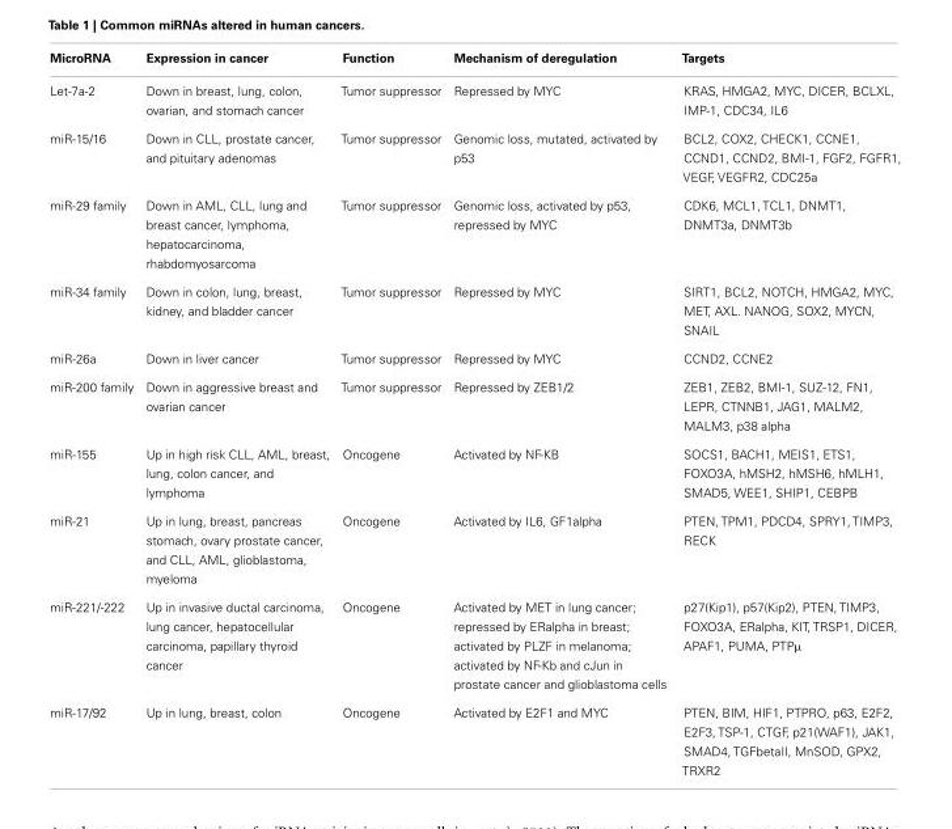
<table><thead><tr><td>MicroRNA</td><td>Expression in cancer</td><td>Function</td><td>Mechanism of deregulation</td><td>Targets</td></tr></thead><tbody><tr><td>Let-7a-2</td><td>Down in breast, lung, colon, ovarian, and stomach cancer</td><td>Tumor suppressor</td><td>Repressed by MYC</td><td>KRAS, HMGA2, MYC, DICER, BCLXL, IMP-1, CDC34, IL6</td></tr><tr><td>miR-15/16</td><td>Down in CLL, prostate cancer, and pituitary adenomas</td><td>Tumor suppressor</td><td>Genomic loss, mutated, activated by p53</td><td>BCL2, COX2, CHECK1, CCNE1, CCND1, CCND2, BMI-1, FGF2, FGFR1, VEGF, VEGFR2, CDC25a</td></tr><tr><td>miR-29 family</td><td>Down in AML, CLL, lung and breast cancer, lymphoma, hepatocarcinoma, rhabdomyosarcoma</td><td>Tumor suppressor</td><td>Genomic loss, activated by p53, repressed by MYC</td><td>CDK6, MCL1, TCL1, DNMT1, DNMT3a, DNMT3b</td></tr><tr><td>miR-34 family</td><td>Down in colon, lung, breast, kidney, and bladder cancer</td><td>Tumor suppressor</td><td>Repressed by MYC</td><td>SIRT1, BCL2, NOTCH, HMGA2, MYC, MET, AXL. NANOG, SOX2, MYCN, SNAIL</td></tr><tr><td>miR-26a</td><td>Down in liver cancer</td><td>Tumor suppressor</td><td>Repressed by MYC</td><td>CCND2, CCNE2</td></tr><tr><td>miR-200 family</td><td>Down in aggressive breast and ovarian cancer</td><td>Tumor suppressor</td><td>Repressed by ZEB1/2</td><td>ZEB1, ZEB2, BMI-1, SUZ-12, FN1, LEPR, CTNNB1, JAG1, MALM2, MALM3, p38 alpha</td></tr><tr><td>miR-155</td><td>Up in high risk CLL, AML, breast, lung, colon cancer, and lymphoma</td><td>Oncogene</td><td>Activated by NF-KB</td><td>SOCS1, BACH1, MEIS1, ETS1, FOXO3A, hMSH2, hMSH6, hMLH1, SMAD5, WEE1, SHIP1, CEBPB</td></tr><tr><td>miR-21</td><td>Up in lung, breast, pancreas stomach, ovary prostate cancer, and CLL, AML, glioblastoma, myeloma</td><td>Oncogene</td><td>Activated by IL6, GF1alpha</td><td>PTEN, TPM1, PDCD4, SPRY1, TIMP3, RECK</td></tr><tr><td>miR-221/-222</td><td>Up in invasive ductal carcinoma, lung cancer, hepatocellular carcinoma, papillary thyroid cancer</td><td>Oncogene</td><td>Activated by MET in lung cancer; repressed by ERalpha in breast; activated by PLZF in melanoma; activated by NF-Kb and cJun in prostate cancer and glioblastoma cells</td><td>p27(Kip1), p57(Kip2), PTEN, TIMP3, FOXO3A, ERalpha, KIT, TRSP1, DICER, APAF1, PUMA, PTPµ</td></tr><tr><td>miR-17/92</td><td>Up in lung, breast, colon</td><td>Oncogene</td><td>Activated by E2F1 and MYC</td><td>PTEN, BIM, HIF1, PTPRO, p63, E2F2, E2F3, TSP-1, CTGF, p21(WAF1), JAK1, SMAD4, TGFbetaII, MnSOD, GPX2, TRXR2</td></tr></tbody></table>